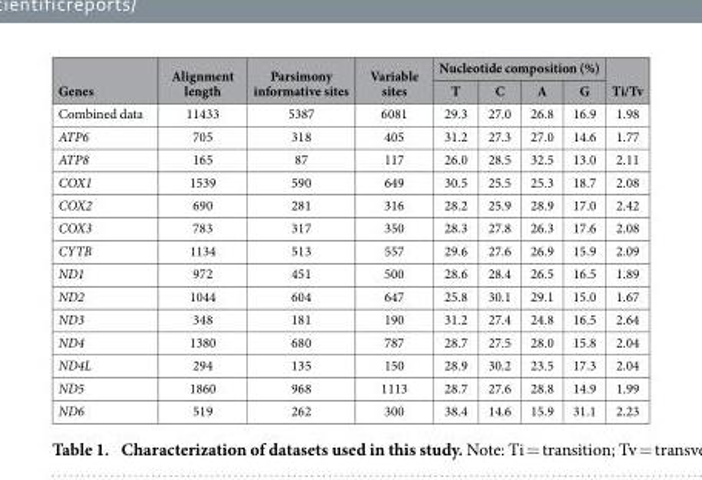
<table><thead><tr><td rowspan="2">Genes</td><td rowspan="2">Alignment length</td><td rowspan="2">Parsimony informative sites</td><td rowspan="2">Variable sites</td><td colspan="4">Nucleotide composition (%)</td><td rowspan="2">Ti/Tv</td></tr><tr><td>T</td><td>C</td><td>A</td><td>G</td></tr></thead><tbody><tr><td>Combined data</td><td>11433</td><td>5387</td><td>6081</td><td>29.3</td><td>27.0</td><td>26.8</td><td>16.9</td><td>1.98</td></tr><tr><td>ATP6</td><td>705</td><td>318</td><td>405</td><td>31.2</td><td>27.3</td><td>27.0</td><td>14.6</td><td>1.77</td></tr><tr><td>ATP8</td><td>165</td><td>87</td><td>117</td><td>26.0</td><td>28.5</td><td>32.5</td><td>13.0</td><td>2.11</td></tr><tr><td>COX1</td><td>1539</td><td>590</td><td>649</td><td>30.5</td><td>25.5</td><td>25.3</td><td>18.7</td><td>2.08</td></tr><tr><td>COX2</td><td>690</td><td>281</td><td>316</td><td>28.2</td><td>25.9</td><td>28.9</td><td>17.0</td><td>2.42</td></tr><tr><td>COX3</td><td>783</td><td>317</td><td>350</td><td>28.3</td><td>27.8</td><td>26.3</td><td>17.6</td><td>2.08</td></tr><tr><td>CYTB</td><td>1134</td><td>513</td><td>557</td><td>29.6</td><td>27.6</td><td>26.9</td><td>15.9</td><td>2.09</td></tr><tr><td>ND1</td><td>972</td><td>451</td><td>500</td><td>28.6</td><td>28.4</td><td>26.5</td><td>16.5</td><td>1.89</td></tr><tr><td>ND2</td><td>1044</td><td>604</td><td>647</td><td>25.8</td><td>30.1</td><td>29.1</td><td>15.0</td><td>1.67</td></tr><tr><td>ND3</td><td>348</td><td>181</td><td>190</td><td>31.2</td><td>27.4</td><td>24.8</td><td>16.5</td><td>2.64</td></tr><tr><td>ND4</td><td>1380</td><td>680</td><td>787</td><td>28.7</td><td>27.5</td><td>28.0</td><td>15.8</td><td>2.04</td></tr><tr><td>ND4L</td><td>294</td><td>135</td><td>150</td><td>28.9</td><td>30.2</td><td>23.5</td><td>17.3</td><td>2.04</td></tr><tr><td>ND5</td><td>1860</td><td>968</td><td>1113</td><td>28.7</td><td>27.6</td><td>28.8</td><td>14.9</td><td>1.99</td></tr><tr><td>ND6</td><td>519</td><td>262</td><td>300</td><td>38.4</td><td>14.6</td><td>15.9</td><td>31.1</td><td>2.23</td></tr></tbody></table>